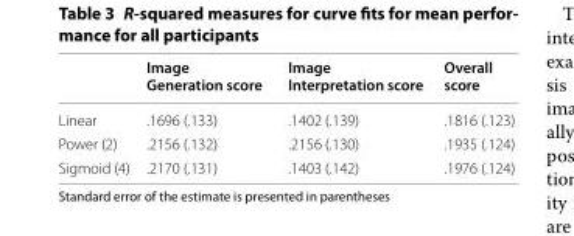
<table><thead><tr><td></td><td>Image Generation score</td><td>Image Interpretation score</td><td>Overall score</td></tr></thead><tbody><tr><td>Linear</td><td>.1696 (.133)</td><td>.1402 (.139)</td><td>.1816 (.123)</td></tr><tr><td>Power (2)</td><td>.2156 (.132)</td><td>.2156 (.130)</td><td>.1935 (.124)</td></tr><tr><td>Sigmoid (4)</td><td>.2170 (.131)</td><td>.1403 (.142)</td><td>.1976 (.124)</td></tr></tbody></table>